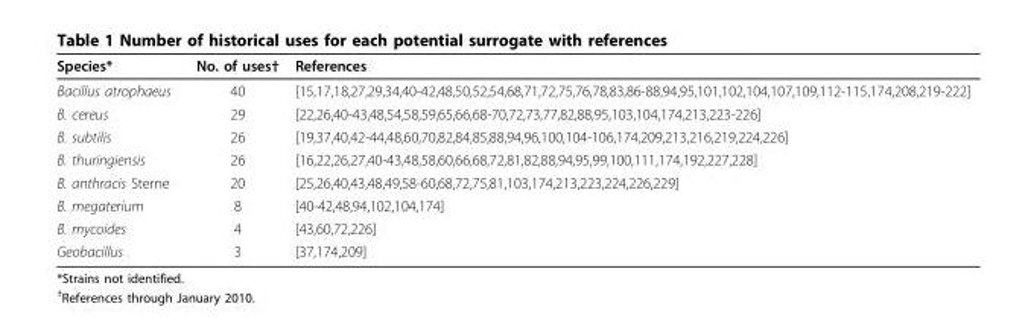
<table><thead><tr><td>Species*</td><td>No. of uses†</td><td>References</td></tr></thead><tbody><tr><td>Bacillus atrophaeus</td><td>40</td><td>[15,17,18,27,29,34,40-42,48,50,52,54,68,71,72,75,76,78,83,86-88,94,95,101,102,104,107,109,112-115,174,208,219-222]</td></tr><tr><td>B. cereus</td><td>29</td><td>[22,26,40-43,48,54,58,59,65,66,68-70,72,73,77,82,88,95,103,104,174,213,223-226]</td></tr><tr><td>B. subtilis</td><td>26</td><td>[19,37,40,42-44,48,60,70,82,84,85,88,94,96,100,104-106,174,209,213,216,219,224,226]</td></tr><tr><td>B. thuringiensis</td><td>26</td><td>[16,22,26,27,40-43,48,58,60,66,68,72,81,82,88,94,95,99,100,111,174,192,227,228]</td></tr><tr><td>B. anthracis Sterne</td><td>20</td><td>[25,26,40,43,48,49,58-60,68,72,75,81,103,174,213,223,224,226,229]</td></tr><tr><td>B. megaterium</td><td>8</td><td>[40-42,48,94,102,104,174]</td></tr><tr><td>B. mycoides</td><td>4</td><td>[43,60,72,226]</td></tr><tr><td>Geobacillus</td><td>3</td><td>[37,174,209]</td></tr></tbody></table>